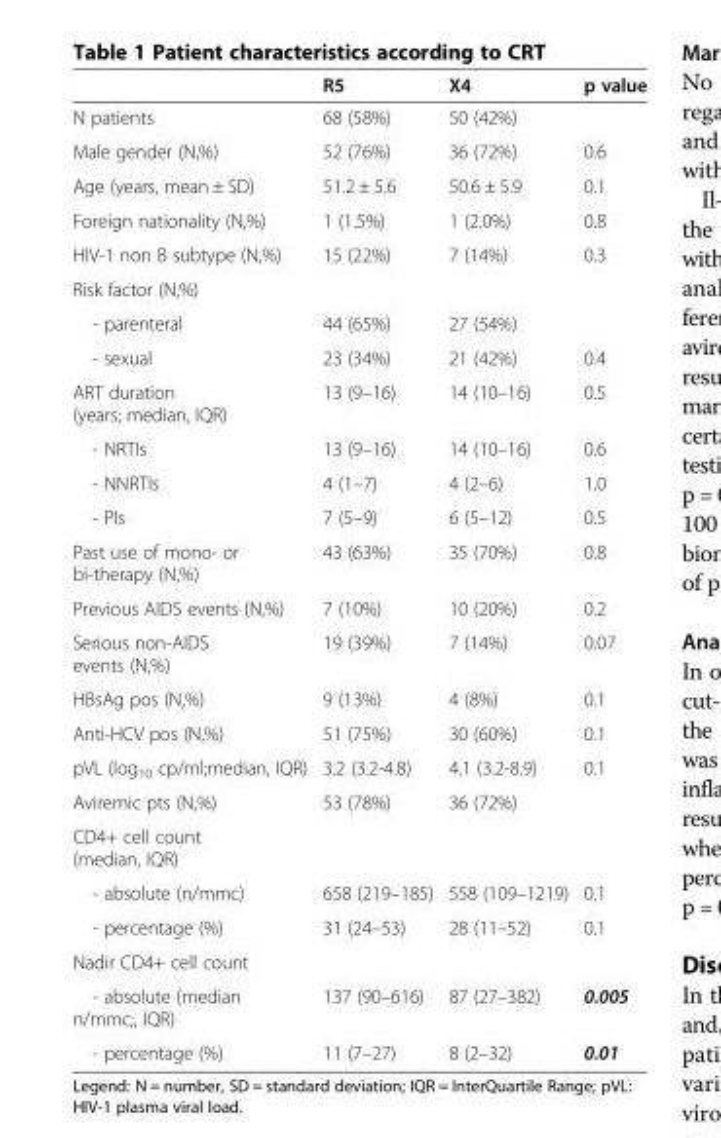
<table><thead><tr><td></td><td>R5</td><td>X4</td><td>p value</td></tr></thead><tbody><tr><td>N patients</td><td>68 (58%)</td><td>50 (42%)</td><td></td></tr><tr><td>Male gender (N,%)</td><td>52 (76%)</td><td>36 (72%)</td><td>0.6</td></tr><tr><td>Age (years, mean ± SD)</td><td>51.2 ± 5.6</td><td>50.6 ± 5.9</td><td>0.1</td></tr><tr><td>Foreign nationality (N,%)</td><td>1 (1.5%)</td><td>1 (2.0%)</td><td>0.8</td></tr><tr><td>HIV-1 non B subtype (N,%)</td><td>15 (22%)</td><td>7 (14%)</td><td>0.3</td></tr><tr><td colspan="4">Risk factor (N,%)</td></tr><tr><td>- parenteral</td><td>44 (65%)</td><td>27 (54%)</td><td></td></tr><tr><td>- sexual</td><td>23 (34%)</td><td>21 (42%)</td><td>0.4</td></tr><tr><td>ART duration (years; median, IQR)</td><td>13 (9–16)</td><td>14 (10–16)</td><td>0.5</td></tr><tr><td>- NRTIs</td><td>13 (9–16)</td><td>14 (10–16)</td><td>0.6</td></tr><tr><td>- NNRTIs</td><td>4 (1–7)</td><td>4 (2–6)</td><td>1.0</td></tr><tr><td>- PIs</td><td>7 (5–9)</td><td>6 (5–12)</td><td>0.5</td></tr><tr><td>Past use of mono- or bi-therapy (N,%)</td><td>43 (63%)</td><td>35 (70%)</td><td>0.8</td></tr><tr><td>Previous AIDS events (N,%)</td><td>7 (10%)</td><td>10 (20%)</td><td>0.2</td></tr><tr><td>Serious non-AIDS events (N,%)</td><td>19 (39%)</td><td>7 (14%)</td><td>0.07</td></tr><tr><td>HBsAg pos (N,%)</td><td>9 (13%)</td><td>4 (8%)</td><td>0.1</td></tr><tr><td>Anti-HCV pos (N,%)</td><td>51 (75%)</td><td>30 (60%)</td><td>0.1</td></tr><tr><td>pVL (log<sub>10</sub> cp/ml;median, IQR)</td><td>3.2 (3.2-4.8)</td><td>4.1 (3.2-8.9)</td><td>0.1</td></tr><tr><td>Aviremic pts (N,%)</td><td>53 (78%)</td><td>36 (72%)</td><td></td></tr><tr><td colspan="4">CD4+ cell count (median, IQR)</td></tr><tr><td>- absolute (n/mmc)</td><td>658 (219–185)</td><td>558 (109–1219)</td><td>0.1</td></tr><tr><td>- percentage (%)</td><td>31 (24–53)</td><td>28 (11–52)</td><td>0.1</td></tr><tr><td colspan="4">Nadir CD4+ cell count</td></tr><tr><td>- absolute (median n/mmc;, IQR)</td><td>137 (90–616)</td><td>87 (27–382)</td><td>0.005</td></tr><tr><td>- percentage (%)</td><td>11 (7–27)</td><td>8 (2–32)</td><td>0.01</td></tr></tbody></table>